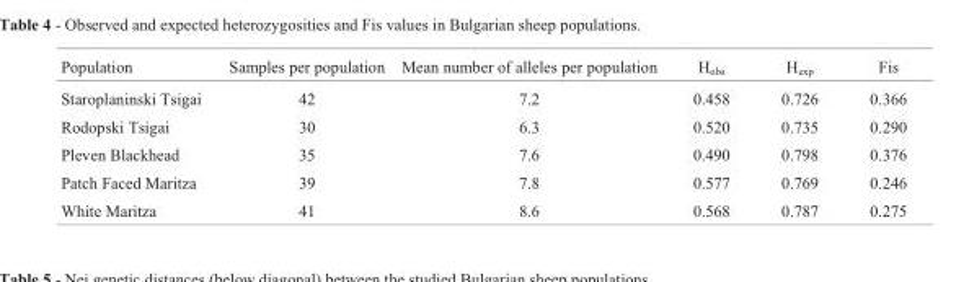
<table><thead><tr><td>Population</td><td>Samples per population</td><td>Mean number of alleles per population</td><td>H<sub>obs</sub></td><td>H<sub>exp</sub></td><td>Fis</td></tr></thead><tbody><tr><td>Staroplaninski Tsigai</td><td>42</td><td>7.2</td><td>0.458</td><td>0.726</td><td>0.366</td></tr><tr><td>Rodopski Tsigai</td><td>30</td><td>6.3</td><td>0.520</td><td>0.735</td><td>0.290</td></tr><tr><td>Pleven Blackhead</td><td>35</td><td>7.6</td><td>0.490</td><td>0.798</td><td>0.376</td></tr><tr><td>Patch Faced Maritza</td><td>39</td><td>7.8</td><td>0.577</td><td>0.769</td><td>0.246</td></tr><tr><td>White Maritza</td><td>41</td><td>8.6</td><td>0.568</td><td>0.787</td><td>0.275</td></tr></tbody></table>